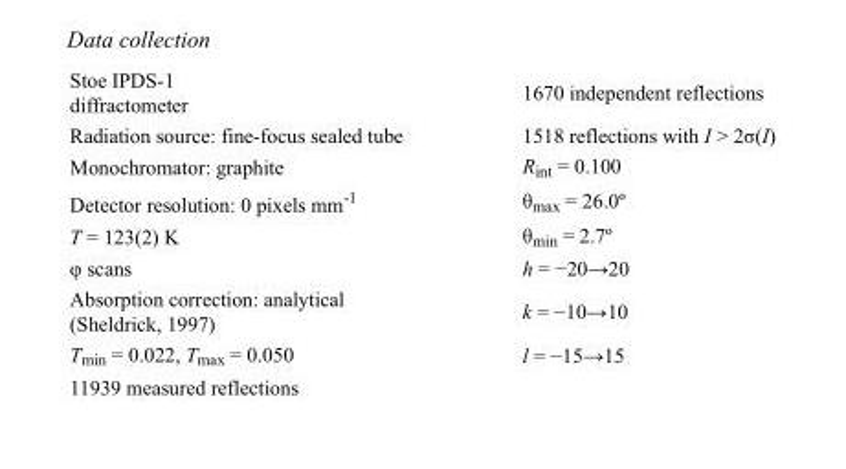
<table><tbody><tr><td>Stoe IPDS-1 diffractometer</td><td>1670 independent reflections</td></tr><tr><td>Radiation source: fine-focus sealed tube</td><td>1518 reflections with I &gt; 2σ(I)</td></tr><tr><td>Monochromator: graphite</td><td>R<sub>int</sub> = 0.100</td></tr><tr><td>Detector resolution: 0 pixels mm<sup>-1</sup></td><td>θ<sub>max</sub> = 26.0º</td></tr><tr><td>T = 123(2) K</td><td>θ<sub>min</sub> = 2.7º</td></tr><tr><td>φ scans</td><td>h = −20→20</td></tr><tr><td>Absorption correction: analytical (Sheldrick, 1997)</td><td>k = −10→10</td></tr><tr><td>T<sub>min</sub> = 0.022, T<sub>max</sub> = 0.050</td><td>l = −15→15</td></tr><tr><td>11939 measured reflections</td><td></td></tr></tbody></table>